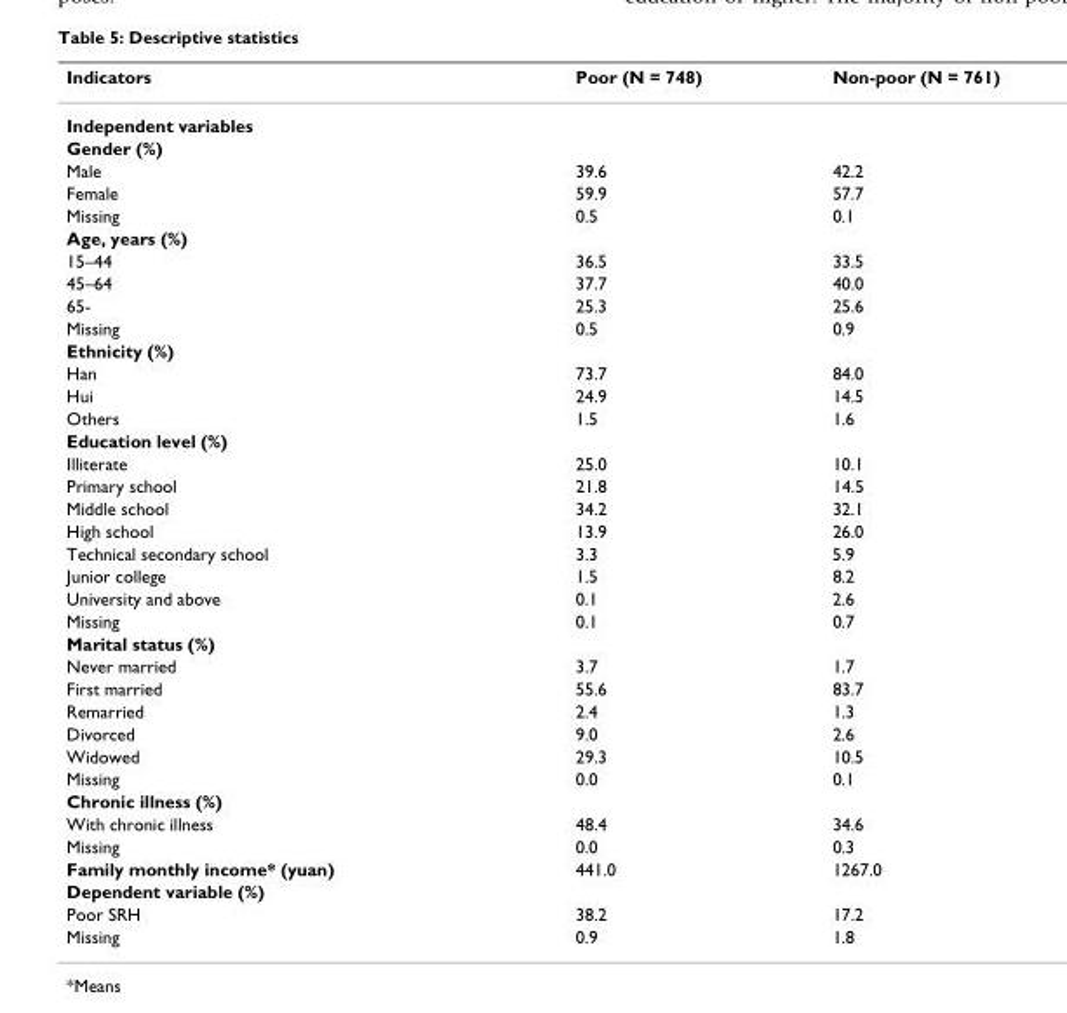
<table><thead><tr><td>Indicators</td><td>Poor (N = 748)</td><td>Non-poor (N = 761)</td></tr></thead><tbody><tr><td colspan="3">Independent variables</td></tr><tr><td colspan="3">Gender (%)</td></tr><tr><td>Male</td><td>39.6</td><td>42.2</td></tr><tr><td>Female</td><td>59.9</td><td>57.7</td></tr><tr><td>Missing</td><td>0.5</td><td>0.1</td></tr><tr><td colspan="3">Age, years (%)</td></tr><tr><td>15–44</td><td>36.5</td><td>33.5</td></tr><tr><td>45–64</td><td>37.7</td><td>40.0</td></tr><tr><td>65-</td><td>25.3</td><td>25.6</td></tr><tr><td>Missing</td><td>0.5</td><td>0.9</td></tr><tr><td colspan="3">Ethnicity (%)</td></tr><tr><td>Han</td><td>73.7</td><td>84.0</td></tr><tr><td>Hui</td><td>24.9</td><td>14.5</td></tr><tr><td>Others</td><td>1.5</td><td>1.6</td></tr><tr><td colspan="3">Education level (%)</td></tr><tr><td>Illiterate</td><td>25.0</td><td>10.1</td></tr><tr><td>Primary school</td><td>21.8</td><td>14.5</td></tr><tr><td>Middle school</td><td>34.2</td><td>32.1</td></tr><tr><td>High school</td><td>13.9</td><td>26.0</td></tr><tr><td>Technical secondary school</td><td>3.3</td><td>5.9</td></tr><tr><td>Junior college</td><td>1.5</td><td>8.2</td></tr><tr><td>University and above</td><td>0.1</td><td>2.6</td></tr><tr><td>Missing</td><td>0.1</td><td>0.7</td></tr><tr><td colspan="3">Marital status (%)</td></tr><tr><td>Never married</td><td>3.7</td><td>1.7</td></tr><tr><td>First married</td><td>55.6</td><td>83.7</td></tr><tr><td>Remarried</td><td>2.4</td><td>1.3</td></tr><tr><td>Divorced</td><td>9.0</td><td>2.6</td></tr><tr><td>Widowed</td><td>29.3</td><td>10.5</td></tr><tr><td>Missing</td><td>0.0</td><td>0.1</td></tr><tr><td colspan="3">Chronic illness (%)</td></tr><tr><td>With chronic illness</td><td>48.4</td><td>34.6</td></tr><tr><td>Missing</td><td>0.0</td><td>0.3</td></tr><tr><td>Family monthly income* (yuan)</td><td>441.0</td><td>1267.0</td></tr><tr><td colspan="3">Dependent variable (%)</td></tr><tr><td>Poor SRH</td><td>38.2</td><td>17.2</td></tr><tr><td>Missing</td><td>0.9</td><td>1.8</td></tr></tbody></table>